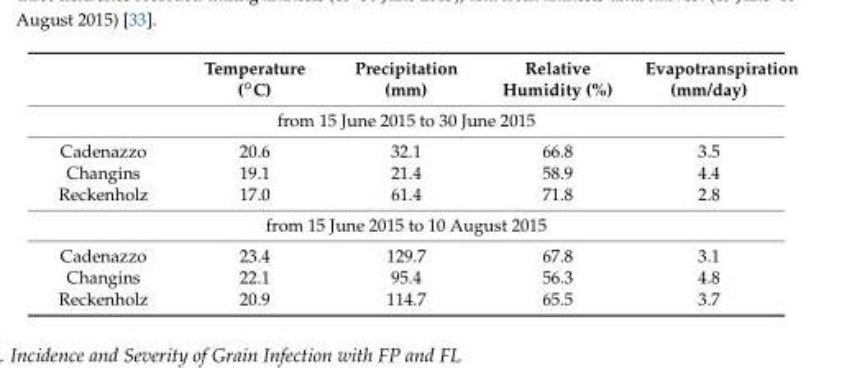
<table><thead><tr><td></td><td>Temperature (◦C)</td><td>Precipitation (mm)</td><td>Relative Humidity (%)</td><td>Evapotranspiration (mm/day)</td></tr></thead><tbody><tr><td colspan="5">from 15 June 2015 to 30 June 2015</td></tr><tr><td>Cadenazzo</td><td>20.6</td><td>32.1</td><td>66.8</td><td>3.5</td></tr><tr><td>Changins</td><td>19.1</td><td>21.4</td><td>58.9</td><td>4.4</td></tr><tr><td>Reckenholz</td><td>17.0</td><td>61.4</td><td>71.8</td><td>2.8</td></tr><tr><td colspan="5">from 15 June 2015 to 10 August 2015</td></tr><tr><td>Cadenazzo</td><td>23.4</td><td>129.7</td><td>67.8</td><td>3.1</td></tr><tr><td>Changins</td><td>22.1</td><td>95.4</td><td>56.3</td><td>4.8</td></tr><tr><td>Reckenholz</td><td>20.9</td><td>114.7</td><td>65.5</td><td>3.7</td></tr></tbody></table>